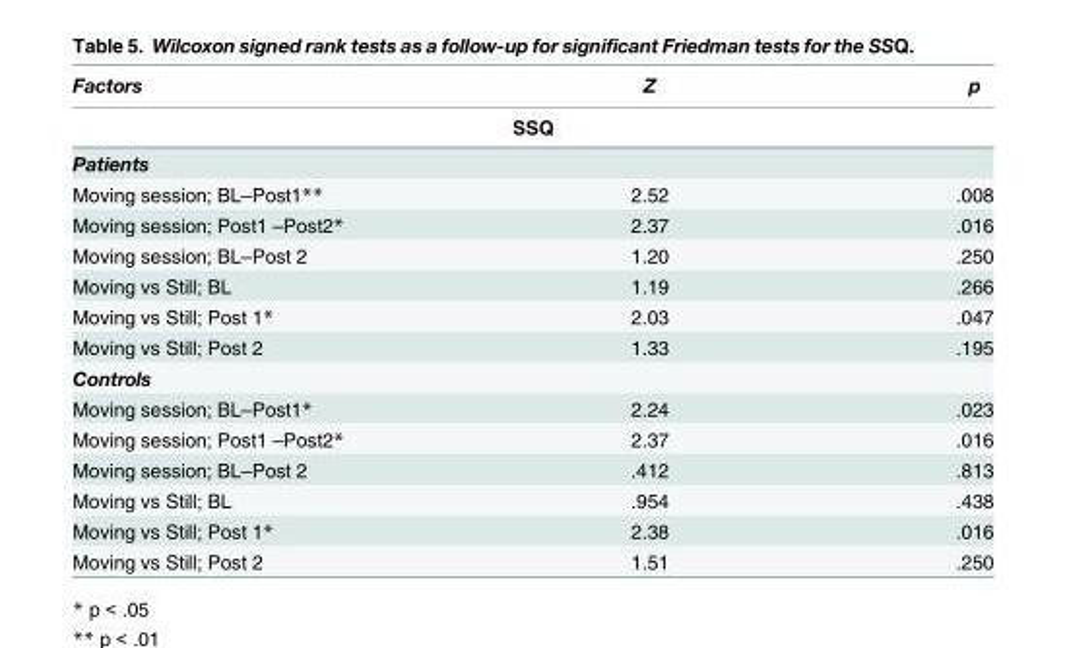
<table><thead><tr><td>Factors</td><td>Z</td><td>p</td></tr><tr><td colspan="3">SSQ</td></tr></thead><tbody><tr><td colspan="3">Patients</td></tr><tr><td>Moving session; BL–Post1**</td><td>2.52</td><td>.008</td></tr><tr><td>Moving session; Post1 –Post2*</td><td>2.37</td><td>.016</td></tr><tr><td>Moving session; BL–Post 2</td><td>1.20</td><td>.250</td></tr><tr><td>Moving vs Still; BL</td><td>1.19</td><td>.266</td></tr><tr><td>Moving vs Still; Post 1*</td><td>2.03</td><td>.047</td></tr><tr><td>Moving vs Still; Post 2</td><td>1.33</td><td>.195</td></tr><tr><td colspan="3">Controls</td></tr><tr><td>Moving session; BL–Post1*</td><td>2.24</td><td>.023</td></tr><tr><td>Moving session; Post1 –Post2*</td><td>2.37</td><td>.016</td></tr><tr><td>Moving session; BL–Post 2</td><td>.412</td><td>.813</td></tr><tr><td>Moving vs Still; BL</td><td>.954</td><td>.438</td></tr><tr><td>Moving vs Still; Post 1*</td><td>2.38</td><td>.016</td></tr><tr><td>Moving vs Still; Post 2</td><td>1.51</td><td>.250</td></tr></tbody></table>